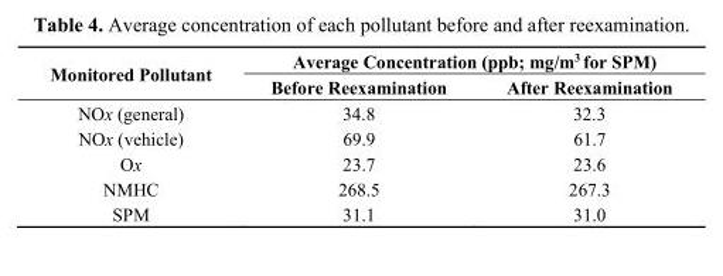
<table><thead><tr><td rowspan="2">Monitored Pollutant</td><td colspan="2">Average Concentration (ppb; mg/m<sup>3</sup> for SPM)</td></tr><tr><td>Before Reexamination</td><td>After Reexamination</td></tr></thead><tbody><tr><td>NOx (general)</td><td>34.8</td><td>32.3</td></tr><tr><td>NOx (vehicle)</td><td>69.9</td><td>61.7</td></tr><tr><td>Ox</td><td>23.7</td><td>23.6</td></tr><tr><td>NMHC</td><td>268.5</td><td>267.3</td></tr><tr><td>SPM</td><td>31.1</td><td>31.0</td></tr></tbody></table>